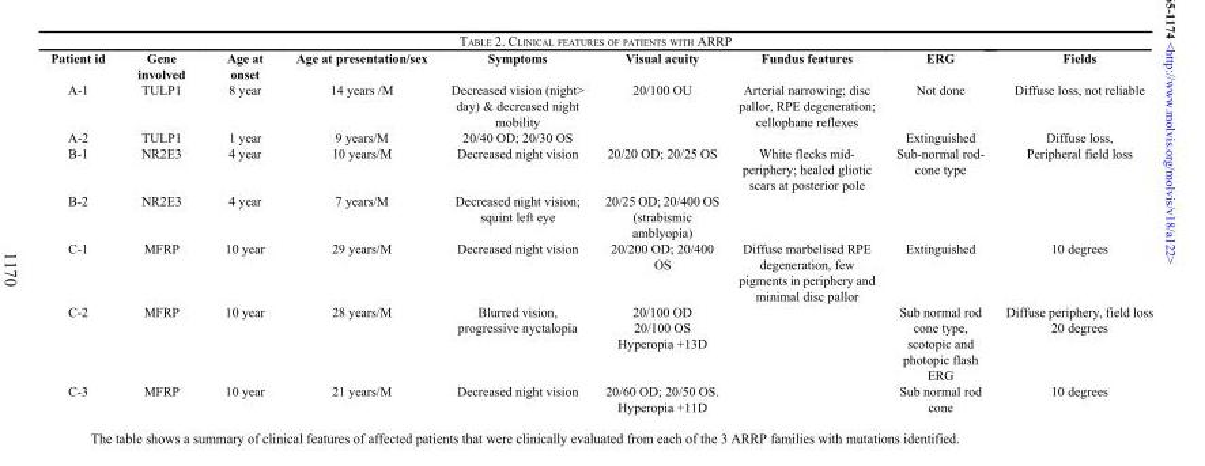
<table><thead><tr><td>Patient id</td><td>Gene involved</td><td>Age at onset</td><td>Age at presentation/sex</td><td>Symptoms</td><td>Visual acuity</td><td>Fundus features</td><td>ERG</td><td>Fields</td></tr></thead><tbody><tr><td>A-1</td><td>TULP1</td><td>8 year</td><td>14 years /M</td><td>Decreased vision (night&gt; day) &amp; decreased night mobility</td><td>20/100 OU</td><td>Arterial narrowing; disc pallor, RPE degeneration; cellophane reflexes</td><td>Not done</td><td>Diffuse loss, not reliable</td></tr><tr><td>A-2</td><td>TULP1</td><td>1 year</td><td>9 years/M</td><td>20/40 OD; 20/30 OS</td><td></td><td></td><td>Extinguished</td><td>Diffuse loss,</td></tr><tr><td>B-1</td><td>NR2E3</td><td>4 year</td><td>10 years/M</td><td>Decreased night vision</td><td>20/20 OD; 20/25 OS</td><td>White flecks mid- periphery; healed gliotic scars at posterior pole</td><td>Sub-normal rod- cone type</td><td>Peripheral field loss</td></tr><tr><td>B-2</td><td>NR2E3</td><td>4 year</td><td>7 years/M</td><td>Decreased night vision; squint left eye</td><td>20/25 OD; 20/400 OS (strabismic amblyopia)</td><td></td><td></td><td></td></tr><tr><td>C-1</td><td>MFRP</td><td>10 year</td><td>29 years/M</td><td>Decreased night vision</td><td>20/200 OD; 20/400 OS</td><td>Diffuse marbelised RPE degeneration, few pigments in periphery and minimal disc pallor</td><td>Extinguished</td><td>10 degrees</td></tr><tr><td>C-2</td><td>MFRP</td><td>10 year</td><td>28 years/M</td><td>Blurred vision, progressive nyctalopia</td><td>20/100 OD 20/100 OS Hyperopia +13D</td><td></td><td>Sub normal rod cone type, scotopic and photopic flash ERG</td><td>Diffuse periphery, field loss 20 degrees</td></tr><tr><td>C-3</td><td>MFRP</td><td>10 year</td><td>21 years/M</td><td>Decreased night vision</td><td>20/60 OD; 20/50 OS. Hyperopia +11D</td><td></td><td>Sub normal rod cone</td><td>10 degrees</td></tr></tbody></table>